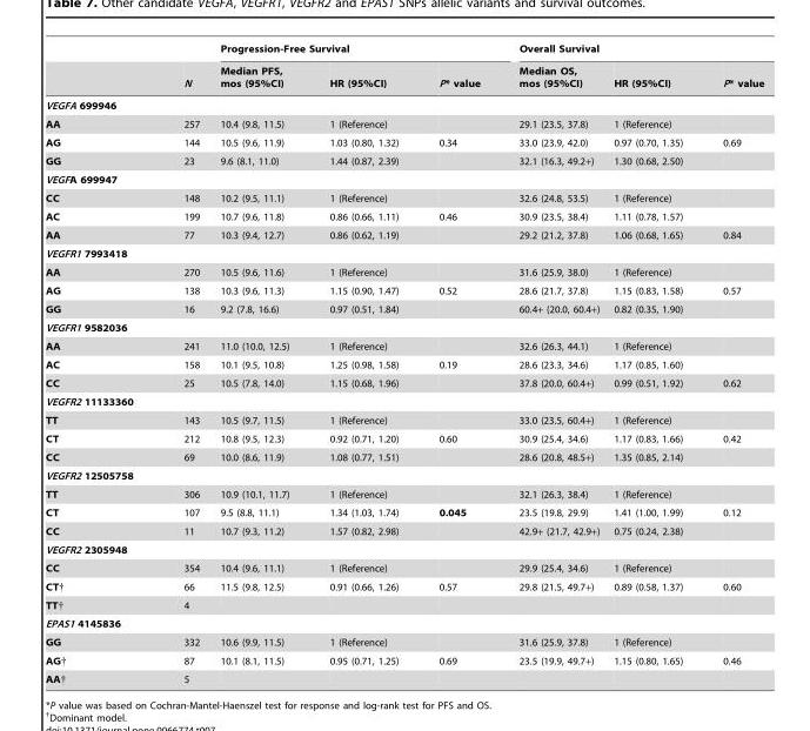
<table><thead><tr><td rowspan="2"></td><td rowspan="2">N</td><td colspan="3">Progression-Free Survival</td><td colspan="3">Overall Survival</td></tr><tr><td>Median PFS, mos (95%CI)</td><td>HR (95%CI)</td><td>P* value</td><td>Median OS, mos (95%CI)</td><td>HR (95%CI)</td><td>P* value</td></tr></thead><tbody><tr><td colspan="8">VEGFA 699946</td></tr><tr><td>AA</td><td>257</td><td>10.4 (9.8, 11.5)</td><td>1 (Reference)</td><td></td><td>29.1 (23.5, 37.8)</td><td>1 (Reference)</td><td></td></tr><tr><td>AG</td><td>144</td><td>10.5 (9.6, 11.9)</td><td>1.03 (0.80, 1.32)</td><td>0.34</td><td>33.0 (23.9, 42.0)</td><td>0.97 (0.70, 1.35)</td><td>0.69</td></tr><tr><td>GG</td><td>23</td><td>9.6 (8.1, 11.0)</td><td>1.44 (0.87, 2.39)</td><td></td><td>32.1 (16.3, 49.2+)</td><td>1.30 (0.68, 2.50)</td><td></td></tr><tr><td colspan="8">VEGFA 699947</td></tr><tr><td>CC</td><td>148</td><td>10.2 (9.5, 11.1)</td><td>1 (Reference)</td><td></td><td>32.6 (24.8, 53.5)</td><td>1 (Reference)</td><td></td></tr><tr><td>AC</td><td>199</td><td>10.7 (9.6, 11.8)</td><td>0.86 (0.66, 1.11)</td><td>0.46</td><td>30.9 (23.5, 38.4)</td><td>1.11 (0.78, 1.57)</td><td></td></tr><tr><td>AA</td><td>77</td><td>10.3 (9.4, 12.7)</td><td>0.86 (0.62, 1.19)</td><td></td><td>29.2 (21.2, 37.8)</td><td>1.06 (0.68, 1.65)</td><td>0.84</td></tr><tr><td colspan="8">VEGFR1 7993418</td></tr><tr><td>AA</td><td>270</td><td>10.5 (9.6, 11.6)</td><td>1 (Reference)</td><td></td><td>31.6 (25.9, 38.0)</td><td>1 (Reference)</td><td></td></tr><tr><td>AG</td><td>138</td><td>10.3 (9.6, 11.3)</td><td>1.15 (0.90, 1.47)</td><td>0.52</td><td>28.6 (21.7, 37.8)</td><td>1.15 (0.83, 1.58)</td><td>0.57</td></tr><tr><td>GG</td><td>16</td><td>9.2 (7.8, 16.6)</td><td>0.97 (0.51, 1.84)</td><td></td><td>60.4+ (20.0, 60.4+)</td><td>0.82 (0.35, 1.90)</td><td></td></tr><tr><td colspan="8">VEGFR1 9582036</td></tr><tr><td>AA</td><td>241</td><td>11.0 (10.0, 12.5)</td><td>1 (Reference)</td><td></td><td>32.6 (26.3, 44.1)</td><td>1 (Reference)</td><td></td></tr><tr><td>AC</td><td>158</td><td>10.1 (9.5, 10.8)</td><td>1.25 (0.98, 1.58)</td><td>0.19</td><td>28.6 (23.3, 34.6)</td><td>1.17 (0.85, 1.60)</td><td></td></tr><tr><td>CC</td><td>25</td><td>10.5 (7.8, 14.0)</td><td>1.15 (0.68, 1.96)</td><td></td><td>37.8 (20.0, 60.4+)</td><td>0.99 (0.51, 1.92)</td><td>0.62</td></tr><tr><td colspan="8">VEGFR2 11133360</td></tr><tr><td>TT</td><td>143</td><td>10.5 (9.7, 11.5)</td><td>1 (Reference)</td><td></td><td>33.0 (23.5, 60.4+)</td><td>1 (Reference)</td><td></td></tr><tr><td>CT</td><td>212</td><td>10.8 (9.5, 12.3)</td><td>0.92 (0.71, 1.20)</td><td>0.60</td><td>30.9 (25.4, 34.6)</td><td>1.17 (0.83, 1.66)</td><td>0.42</td></tr><tr><td>CC</td><td>69</td><td>10.0 (8.6, 11.9)</td><td>1.08 (0.77, 1.51)</td><td></td><td>28.6 (20.8, 48.5+)</td><td>1.35 (0.85, 2.14)</td><td></td></tr><tr><td colspan="8">VEGFR2 12505758</td></tr><tr><td>TT</td><td>306</td><td>10.9 (10.1, 11.7)</td><td>1 (Reference)</td><td></td><td>32.1 (26.3, 38.4)</td><td>1 (Reference)</td><td></td></tr><tr><td>CT</td><td>107</td><td>9.5 (8.8, 11.1)</td><td>1.34 (1.03, 1.74)</td><td>0.045</td><td>23.5 (19.8, 29.9)</td><td>1.41 (1.00, 1.99)</td><td>0.12</td></tr><tr><td>CC</td><td>11</td><td>10.7 (9.3, 11.2)</td><td>1.57 (0.82, 2.98)</td><td></td><td>42.9+ (21.7, 42.9+)</td><td>0.75 (0.24, 2.38)</td><td></td></tr><tr><td colspan="8">VEGFR2 2305948</td></tr><tr><td>CC</td><td>354</td><td>10.4 (9.6, 11.1)</td><td>1 (Reference)</td><td></td><td>29.9 (25.4, 34.6)</td><td>1 (Reference)</td><td></td></tr><tr><td>CT†</td><td>66</td><td>11.5 (9.8, 12.5)</td><td>0.91 (0.66, 1.26)</td><td>0.57</td><td>29.8 (21.5, 49.7+)</td><td>0.89 (0.58, 1.37)</td><td>0.60</td></tr><tr><td>TT†</td><td>4</td><td></td><td></td><td></td><td></td><td></td><td></td></tr><tr><td colspan="8">EPAS1 4145836</td></tr><tr><td>GG</td><td>332</td><td>10.6 (9.9, 11.5)</td><td>1 (Reference)</td><td></td><td>31.6 (25.9, 37.8)</td><td>1 (Reference)</td><td></td></tr><tr><td>AG†</td><td>87</td><td>10.1 (8.1, 11.5)</td><td>0.95 (0.71, 1.25)</td><td>0.69</td><td>23.5 (19.9, 49.7+)</td><td>1.15 (0.80, 1.65)</td><td>0.46</td></tr><tr><td>AA†</td><td>5</td><td></td><td></td><td></td><td></td><td></td><td></td></tr></tbody></table>